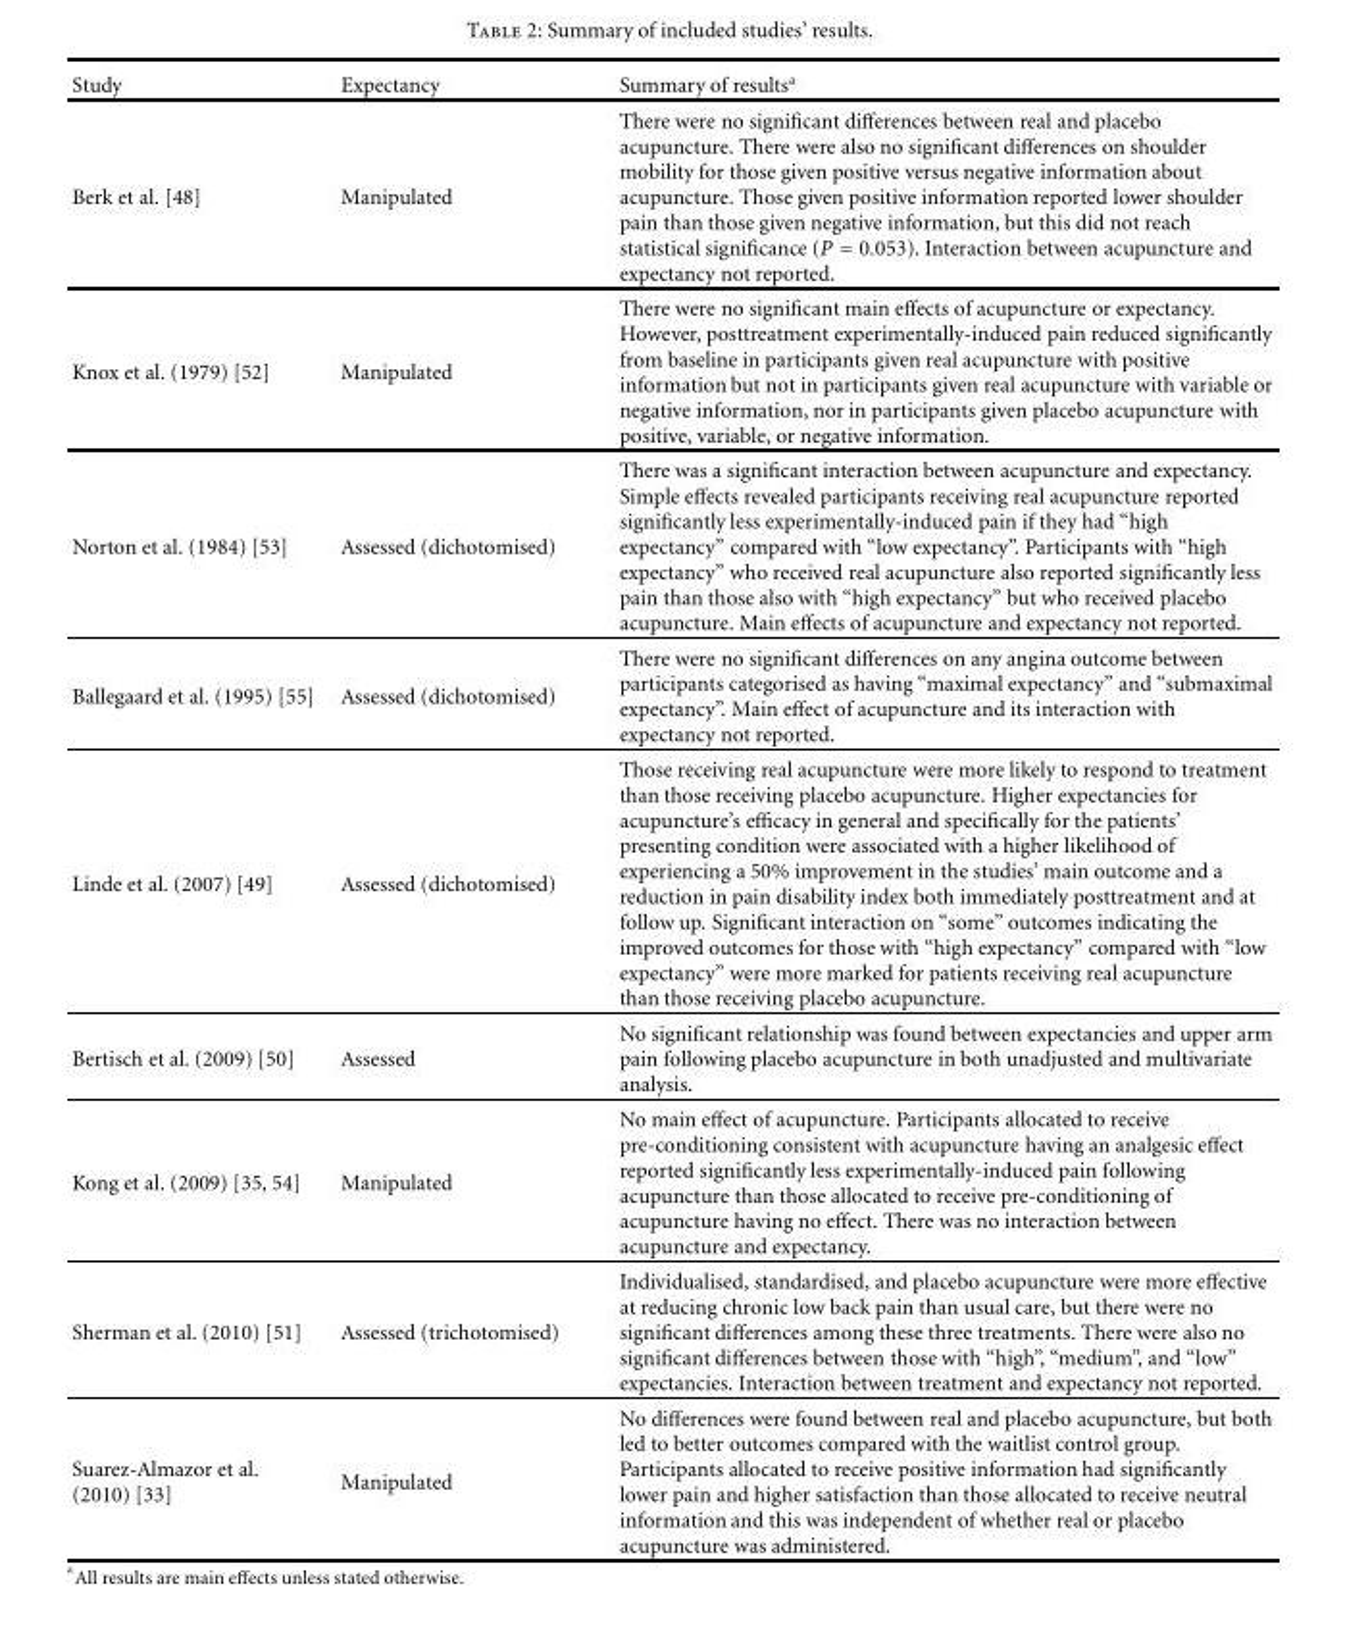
<table><thead><tr><td>Study</td><td>Expectancy</td><td>Summary of resultsa</td></tr></thead><tbody><tr><td>Berk et al. [48]</td><td>Manipulated</td><td>There were no significant differences between real and placebo acupuncture. There were also no significant differences on shoulder mobility for those given positive versus negative information about acupuncture. Those given positive information reported lower shoulder pain than those given negative information, but this did not reach statistical significance (P = 0.053). Interaction between acupuncture and expectancy not reported.</td></tr><tr><td>Knox et al. (1979) [52]</td><td>Manipulated</td><td>There were no significant main effects of acupuncture or expectancy. However, posttreatment experimentally-induced pain reduced significantly from baseline in participants given real acupuncture with positive information but not in participants given real acupuncture with variable or negative information, nor in participants given placebo acupuncture with positive, variable, or negative information.</td></tr><tr><td>Norton et al. (1984) [53]</td><td>Assessed (dichotomised)</td><td>There was a significant interaction between acupuncture and expectancy. Simple effects revealed participants receiving real acupuncture reported significantly less experimentally-induced pain if they had “high expectancy” compared with “low expectancy”. Participants with “high expectancy” who received real acupuncture also reported significantly less pain than those also with “high expectancy” but who received placebo acupuncture. Main effects of acupuncture and expectancy not reported.</td></tr><tr><td>Ballegaard et al. (1995) [55]</td><td>Assessed (dichotomised)</td><td>There were no significant differences on any angina outcome between participants categorised as having “maximal expectancy” and “submaximal expectancy”. Main effect of acupuncture and its interaction with expectancy not reported.</td></tr><tr><td>Linde et al. (2007) [49]</td><td>Assessed (dichotomised)</td><td>Those receiving real acupuncture were more likely to respond to treatment than those receiving placebo acupuncture. Higher expectancies for acupuncture’s efficacy in general and specifically for the patients’ presenting condition were associated with a higher likelihood of experiencing a 50% improvement in the studies’ main outcome and a reduction in pain disability index both immediately posttreatment and at follow up. Significant interaction on “some” outcomes indicating the improved outcomes for those with “high expectancy” compared with “low expectancy” were more marked for patients receiving real acupuncture than those receiving placebo acupuncture.</td></tr><tr><td>Bertisch et al. (2009) [50]</td><td>Assessed</td><td>No significant relationship was found between expectancies and upper arm pain following placebo acupuncture in both unadjusted and multivariate analysis.</td></tr><tr><td>Kong et al. (2009) [35, 54]</td><td>Manipulated</td><td>No main effect of acupuncture. Participants allocated to receive pre-conditioning consistent with acupuncture having an analgesic effect reported significantly less experimentally-induced pain following acupuncture than those allocated to receive pre-conditioning of acupuncture having no effect. There was no interaction between acupuncture and expectancy.</td></tr><tr><td>Sherman et al. (2010) [51]</td><td>Assessed (trichotomised)</td><td>Individualised, standardised, and placebo acupuncture were more effective at reducing chronic low back pain than usual care, but there were no significant differences among these three treatments. There were also no significant differences between those with “high”, “medium”, and “low” expectancies. Interaction between treatment and expectancy not reported.</td></tr><tr><td>Suarez-Almazor et al. (2010) [33]</td><td>Manipulated</td><td>No differences were found between real and placebo acupuncture, but both led to better outcomes compared with the waitlist control group. Participants allocated to receive positive information had significantly lower pain and higher satisfaction than those allocated to receive neutral information and this was independent of whether real or placebo acupuncture was administered.</td></tr></tbody></table>